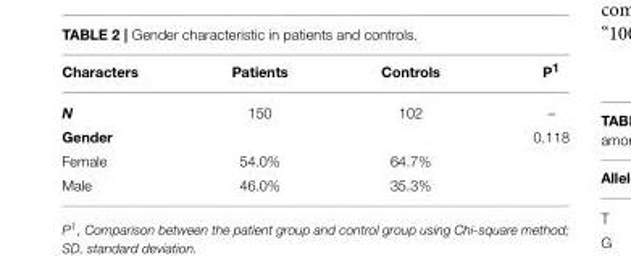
<table><thead><tr><td>Characters</td><td>Patients</td><td>Controls</td><td>P<sup>1</sup></td></tr></thead><tbody><tr><td>N</td><td>150</td><td>102</td><td>–</td></tr><tr><td>Gender</td><td></td><td></td><td>0.118</td></tr><tr><td>Female</td><td>54.0%</td><td>64.7%</td><td></td></tr><tr><td>Male</td><td>46.0%</td><td>35.3%</td><td></td></tr></tbody></table>